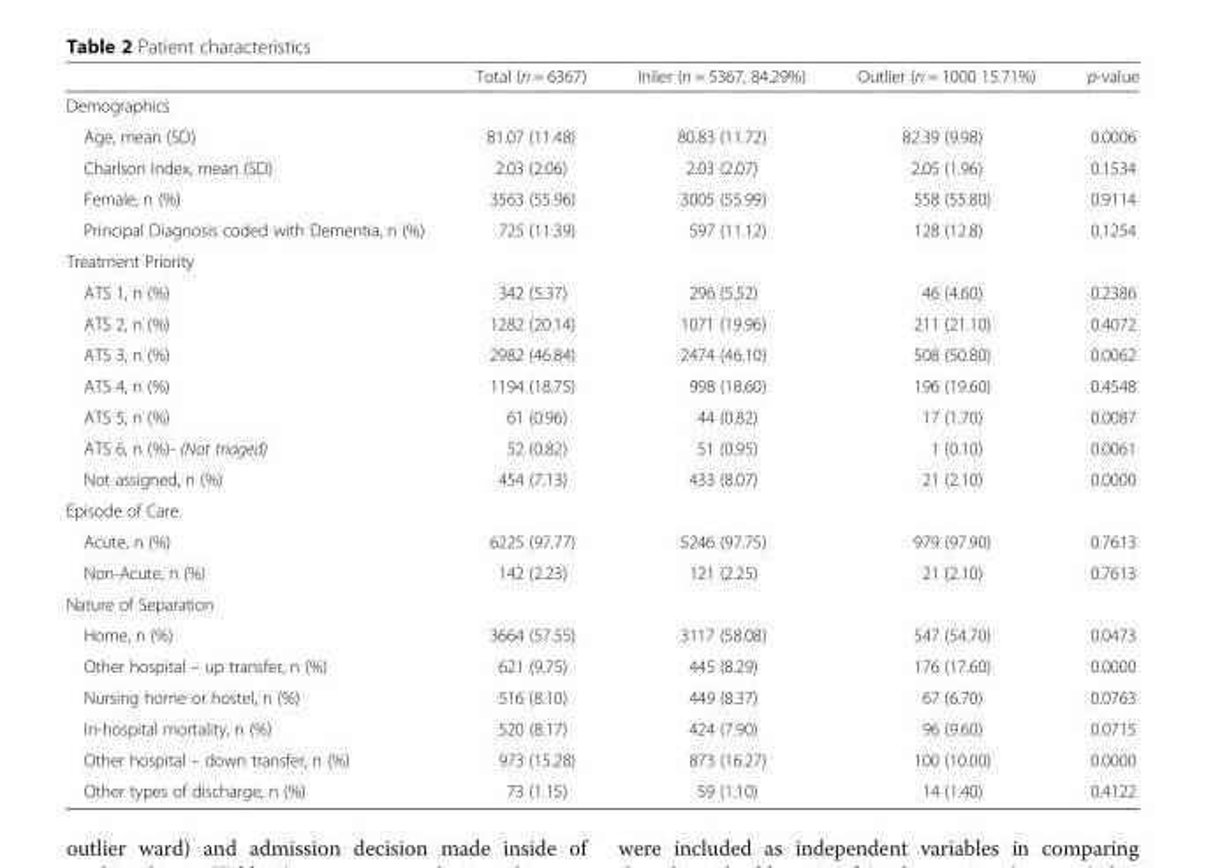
<table><thead><tr><td></td><td>Total (n = 6367)</td><td>Inlier (n = 5367, 84.29%)</td><td>Outlier (n = 1000 15.71%)</td><td>p-value</td></tr></thead><tbody><tr><td colspan="5">Demographics</td></tr><tr><td>Age, mean (SD)</td><td>81.07 (11.48)</td><td>80.83 (11.72)</td><td>82.39 (9.98)</td><td>0.0006</td></tr><tr><td>Charlson Index, mean (SD)</td><td>2.03 (2.06)</td><td>2.03 (2.07)</td><td>2.05 (1.96)</td><td>0.1534</td></tr><tr><td>Female, n (%)</td><td>3563 (55.96)</td><td>3005 (55.99)</td><td>558 (55.80)</td><td>0.9114</td></tr><tr><td>Principal Diagnosis coded with Dementia, n (%)</td><td>725 (11.39)</td><td>597 (11.12)</td><td>128 (12.8)</td><td>0.1254</td></tr><tr><td colspan="5">Treatment Priority</td></tr><tr><td>ATS 1, n (%)</td><td>342 (5.37)</td><td>296 (5.52)</td><td>46 (4.60)</td><td>0.2386</td></tr><tr><td>ATS 2, n (%)</td><td>1282 (20.14)</td><td>1071 (19.96)</td><td>211 (21.10)</td><td>0.4072</td></tr><tr><td>ATS 3, n (%)</td><td>2982 (46.84)</td><td>2474 (46.10)</td><td>508 (50.80)</td><td>0.0062</td></tr><tr><td>ATS 4, n (%)</td><td>1194 (18.75)</td><td>998 (18.60)</td><td>196 (19.60)</td><td>0.4548</td></tr><tr><td>ATS 5, n (%)</td><td>61 (0.96)</td><td>44 (0.82)</td><td>17 (1.70)</td><td>0.0087</td></tr><tr><td>ATS 6, n (%)- (Not triaged)</td><td>52 (0.82)</td><td>51 (0.95)</td><td>1 (0.10)</td><td>0.0061</td></tr><tr><td>Not assigned, n (%)</td><td>454 (7.13)</td><td>433 (8.07)</td><td>21 (2.10)</td><td>0.0000</td></tr><tr><td colspan="5">Episode of Care</td></tr><tr><td>Acute, n (%)</td><td>6225 (97.77)</td><td>5246 (97.75)</td><td>979 (97.90)</td><td>0.7613</td></tr><tr><td>Non-Acute, n (%)</td><td>142 (2.23)</td><td>121 (2.25)</td><td>21 (2.10)</td><td>0.7613</td></tr><tr><td colspan="5">Nature of Separation</td></tr><tr><td>Home, n (%)</td><td>3664 (57.55)</td><td>3117 (58.08)</td><td>547 (54.70)</td><td>0.0473</td></tr><tr><td>Other hospital – up transfer, n (%)</td><td>621 (9.75)</td><td>445 (8.29)</td><td>176 (17.60)</td><td>0.0000</td></tr><tr><td>Nursing home or hostel, n (%)</td><td>516 (8.10)</td><td>449 (8.37)</td><td>67 (6.70)</td><td>0.0763</td></tr><tr><td>In-hospital mortality, n (%)</td><td>520 (8.17)</td><td>424 (7.90)</td><td>96 (9.60)</td><td>0.0715</td></tr><tr><td>Other hospital – down transfer, n (%)</td><td>973 (15.28)</td><td>873 (16.27)</td><td>100 (10.00)</td><td>0.0000</td></tr><tr><td>Other types of discharge, n (%)</td><td>73 (1.15)</td><td>59 (1.10)</td><td>14 (1.40)</td><td>0.4122</td></tr></tbody></table>